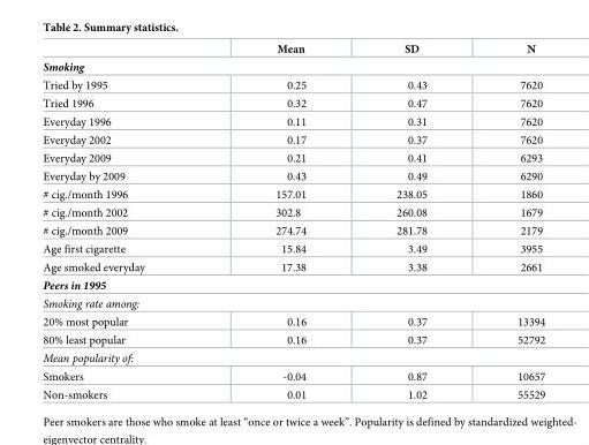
<table><thead><tr><td></td><td>Mean</td><td>SD</td><td>N</td></tr></thead><tbody><tr><td colspan="4">Smoking</td></tr><tr><td>Tried by 1995</td><td>0.25</td><td>0.43</td><td>7620</td></tr><tr><td>Tried 1996</td><td>0.32</td><td>0.47</td><td>7620</td></tr><tr><td>Everyday 1996</td><td>0.11</td><td>0.31</td><td>7620</td></tr><tr><td>Everyday 2002</td><td>0.17</td><td>0.37</td><td>7620</td></tr><tr><td>Everyday 2009</td><td>0.21</td><td>0.41</td><td>6293</td></tr><tr><td>Everyday by 2009</td><td>0.43</td><td>0.49</td><td>6290</td></tr><tr><td># cig./month 1996</td><td>157.01</td><td>238.05</td><td>1860</td></tr><tr><td># cig./month 2002</td><td>302.8</td><td>260.08</td><td>1679</td></tr><tr><td># cig./month 2009</td><td>274.74</td><td>281.78</td><td>2179</td></tr><tr><td>Age first cigarette</td><td>15.84</td><td>3.49</td><td>3955</td></tr><tr><td>Age smoked everyday</td><td>17.38</td><td>3.38</td><td>2661</td></tr><tr><td colspan="4">Peers in 1995</td></tr><tr><td colspan="4">Smoking rate among:</td></tr><tr><td>20% most popular</td><td>0.16</td><td>0.37</td><td>13394</td></tr><tr><td>80% least popular</td><td>0.16</td><td>0.37</td><td>52792</td></tr><tr><td colspan="4">Mean popularity of:</td></tr><tr><td>Smokers</td><td>-0.04</td><td>0.87</td><td>10657</td></tr><tr><td>Non-smokers</td><td>0.01</td><td>1.02</td><td>55529</td></tr></tbody></table>